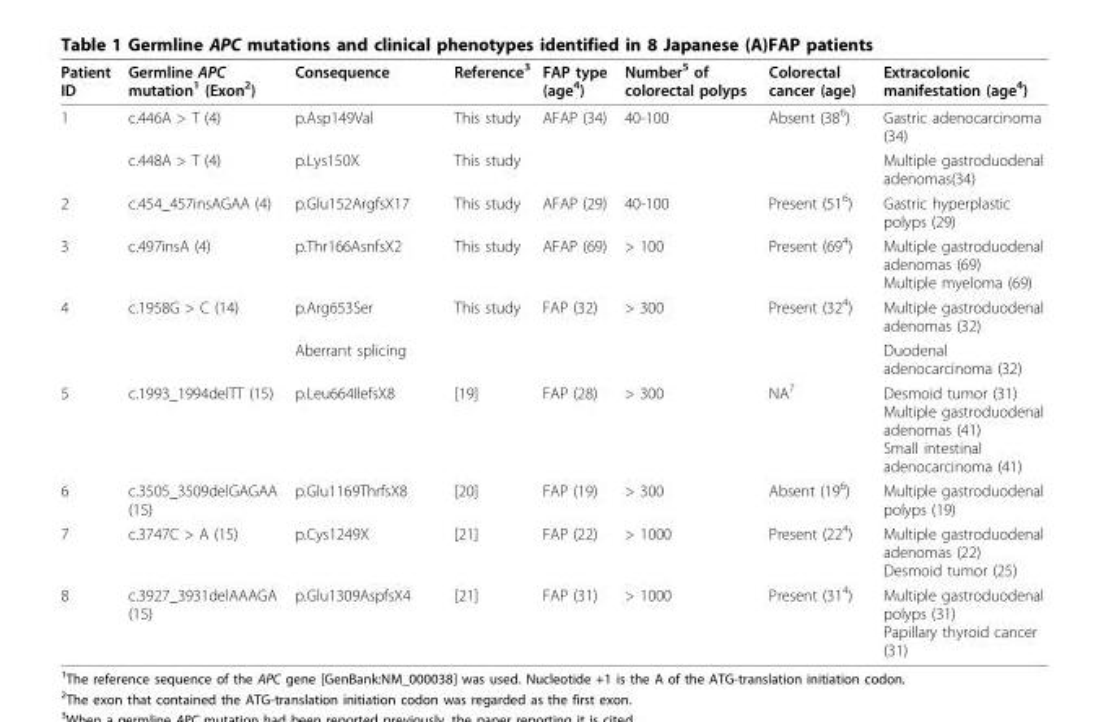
<table><thead><tr><td>Patient ID</td><td>Germline APC mutation<sup>1</sup> (Exon<sup>2</sup>)</td><td>Consequence</td><td>Reference<sup>3</sup></td><td>FAP type (age<sup>4</sup>)</td><td>Number<sup>5</sup> of colorectal polyps</td><td>Colorectal cancer (age)</td><td>Extracolonic manifestation (age<sup>4</sup>)</td></tr></thead><tbody><tr><td rowspan="2">1</td><td>c.446A &gt; T (4)</td><td>p.Asp149Val</td><td>This study</td><td>AFAP (34)</td><td>40-100</td><td>Absent (38<sup>6</sup>)</td><td>Gastric adenocarcinoma (34)</td></tr><tr><td>c.448A &gt; T (4)</td><td>p.Lys150X</td><td>This study</td><td></td><td></td><td></td><td>Multiple gastroduodenal adenomas(34)</td></tr><tr><td>2</td><td>c.454_457insAGAA (4)</td><td>p.Glu152ArgfsX17</td><td>This study</td><td>AFAP (29)</td><td>40-100</td><td>Present (51<sup>6</sup>)</td><td>Gastric hyperplastic polyps (29)</td></tr><tr><td>3</td><td>c.497insA (4)</td><td>p.Thr166AsnfsX2</td><td>This study</td><td>AFAP (69)</td><td>&gt; 100</td><td>Present (69<sup>4</sup>)</td><td>Multiple gastroduodenal adenomas (69) Multiple myeloma (69)</td></tr><tr><td rowspan="2">4</td><td>c.1958G &gt; C (14)</td><td>p.Arg653Ser</td><td>This study</td><td>FAP (32)</td><td>&gt; 300</td><td>Present (32<sup>4</sup>)</td><td>Multiple gastroduodenal adenomas (32)</td></tr><tr><td></td><td>Aberrant splicing</td><td></td><td></td><td></td><td></td><td>Duodenal adenocarcinoma (32)</td></tr><tr><td>5</td><td>c.1993_1994delTT (15)</td><td>p.Leu664IlefsX8</td><td>[19]</td><td>FAP (28)</td><td>&gt; 300</td><td>NA<sup>7</sup></td><td>Desmoid tumor (31) Multiple gastroduodenal adenomas (41) Small intestinal adenocarcinoma (41)</td></tr><tr><td>6</td><td>c.3505_3509delGAGAA (15)</td><td>p.Glu1169ThrfsX8</td><td>[20]</td><td>FAP (19)</td><td>&gt; 300</td><td>Absent (19<sup>6</sup>)</td><td>Multiple gastroduodenal polyps (19)</td></tr><tr><td>7</td><td>c.3747C &gt; A (15)</td><td>p.Cys1249X</td><td>[21]</td><td>FAP (22)</td><td>&gt; 1000</td><td>Present (22<sup>4</sup>)</td><td>Multiple gastroduodenal adenomas (22) Desmoid tumor (25)</td></tr><tr><td>8</td><td>c.3927_3931delAAAGA (15)</td><td>p.Glu1309AspfsX4</td><td>[21]</td><td>FAP (31)</td><td>&gt; 1000</td><td>Present (31<sup>4</sup>)</td><td>Multiple gastroduodenal polyps (31) Papillary thyroid cancer (31)</td></tr></tbody></table>